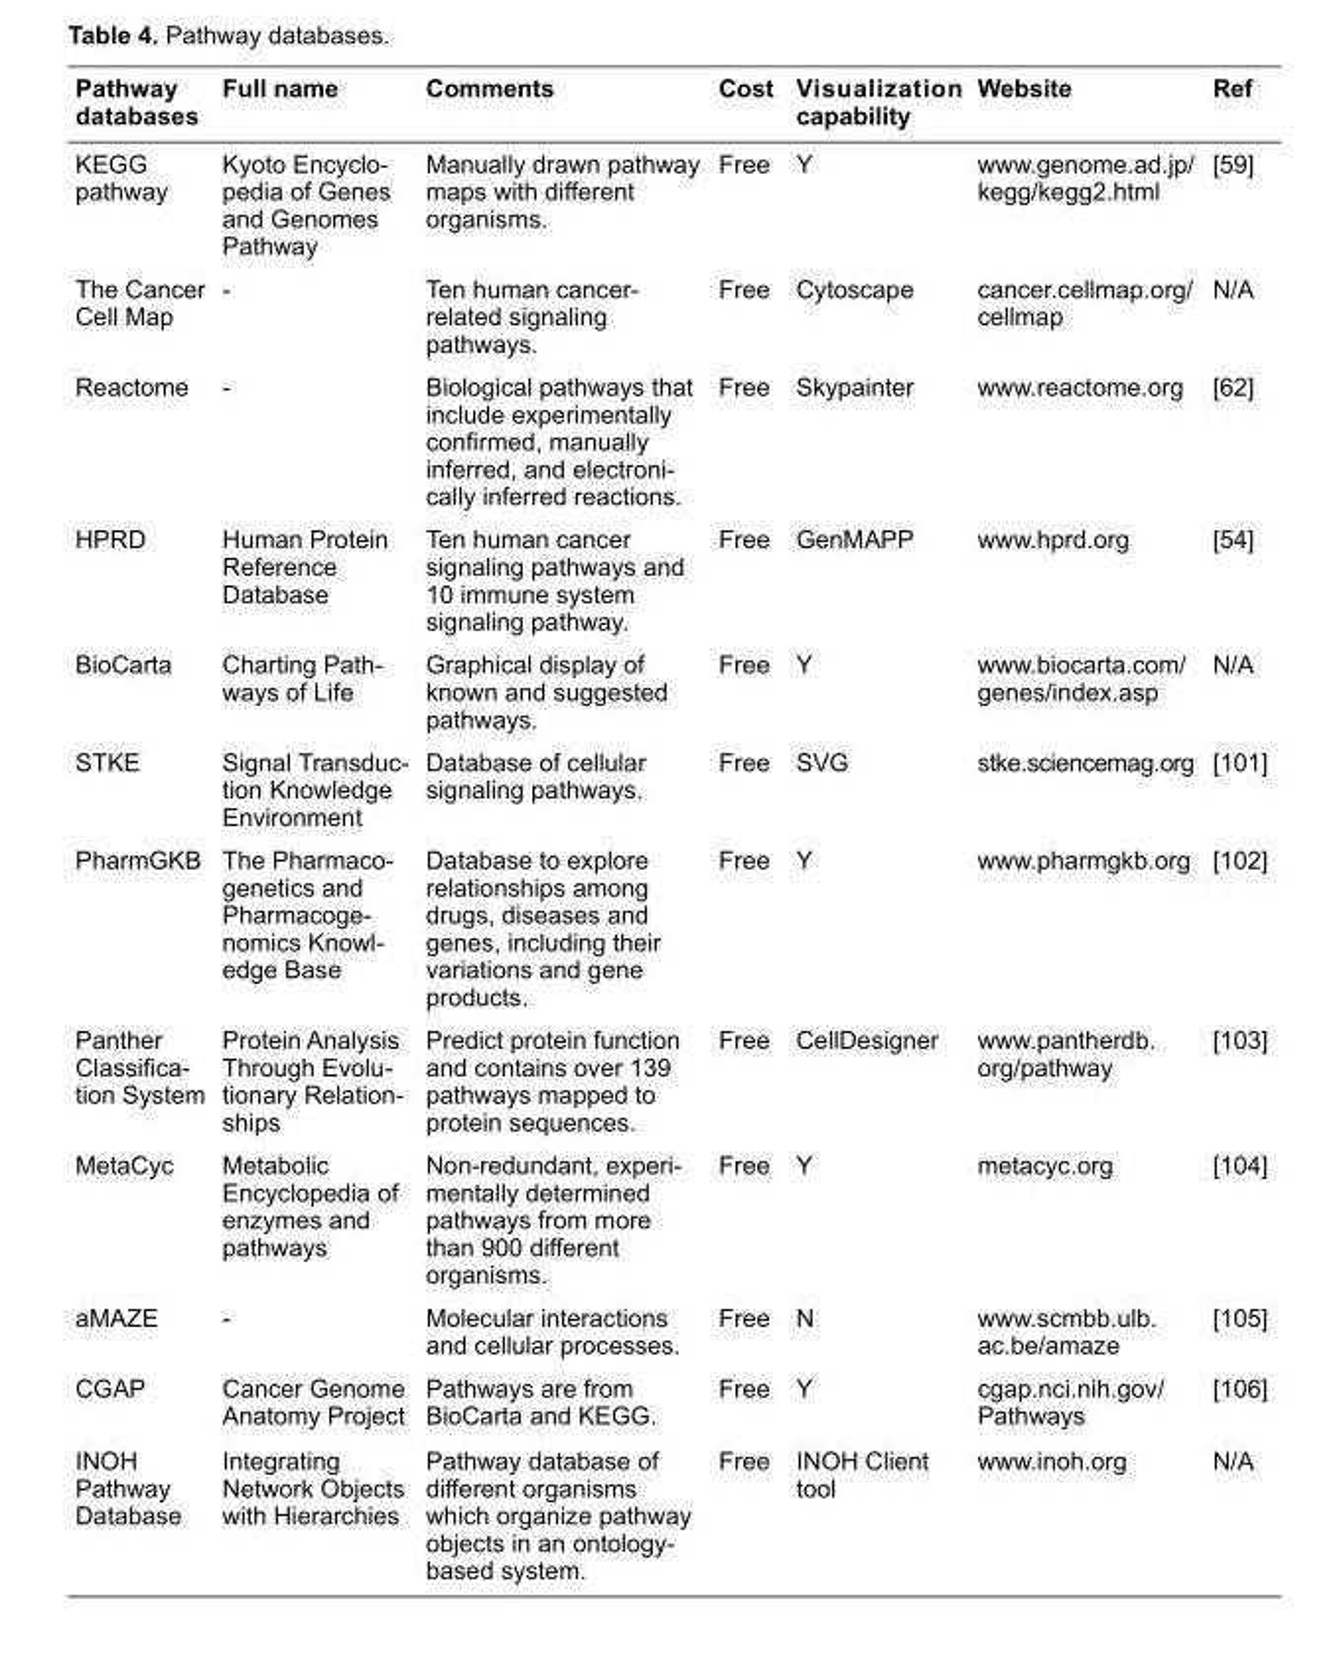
<table><thead><tr><td>Pathway databases</td><td>Full name</td><td>Comments</td><td>Cost</td><td>Visualization capability</td><td>Website</td><td>Ref</td></tr></thead><tbody><tr><td>KEGG pathway</td><td>Kyoto Encyclo- pedia of Genes and Genomes Pathway</td><td>Manually drawn pathway maps with different organisms.</td><td>Free</td><td>Y</td><td>www.genome.ad.jp/ kegg/kegg2.html</td><td>[59]</td></tr><tr><td>The Cancer Cell Map</td><td>-</td><td>Ten human cancer- related signaling pathways.</td><td>Free</td><td>Cytoscape</td><td>cancer.cellmap.org/ cellmap</td><td>N/A</td></tr><tr><td>Reactome</td><td>-</td><td>Biological pathways that include experimentally confi rmed, manually inferred, and electroni- cally inferred reactions.</td><td>Free</td><td>Skypainter</td><td>www.reactome.org</td><td>[62]</td></tr><tr><td>HPRD</td><td>Human Protein Reference Database</td><td>Ten human cancer signaling pathways and 10 immune system signaling pathway.</td><td>Free</td><td>GenMAPP</td><td>www.hprd.org</td><td>[54]</td></tr><tr><td>BioCarta</td><td>Charting Path- ways of Life</td><td>Graphical display of known and suggested pathways.</td><td>Free</td><td>Y</td><td>www.biocarta.com/ genes/index.asp</td><td>N/A</td></tr><tr><td>STKE</td><td>Signal Transduc- tion Knowledge Environment</td><td>Database of cellular signaling pathways.</td><td>Free</td><td>SVG</td><td>stke.sciencemag.org</td><td>[101]</td></tr><tr><td>PharmGKB</td><td>The Pharmaco- genetics and Pharmacoge- nomics Knowl- edge Base</td><td>Database to explore relationships among drugs, diseases and genes, including their variations and gene products.</td><td>Free</td><td>Y</td><td>www.pharmgkb.org</td><td>[102]</td></tr><tr><td>Panther Classifi ca- tion System</td><td>Protein Analysis Through Evolu- tionary Relation- ships</td><td>Predict protein function and contains over 139 pathways mapped to protein sequences.</td><td>Free</td><td>CellDesigner</td><td>www.pantherdb. org/pathway</td><td>[103]</td></tr><tr><td>MetaCyc</td><td>Metabolic Encyclopedia of enzymes and pathways</td><td>Non-redundant, experi- mentally determined pathways from more than 900 different organisms.</td><td>Free</td><td>Y</td><td>metacyc.org</td><td>[104]</td></tr><tr><td>aMAZE</td><td>-</td><td>Molecular interactions and cellular processes.</td><td>Free</td><td>N</td><td>www.scmbb.ulb. ac.be/amaze</td><td>[105]</td></tr><tr><td>CGAP</td><td>Cancer Genome Anatomy Project</td><td>Pathways are from BioCarta and KEGG.</td><td>Free</td><td>Y</td><td>cgap.nci.nih.gov/ Pathways</td><td>[106]</td></tr><tr><td>INOH Pathway Database</td><td>Integrating Network Objects with Hierarchies</td><td>Pathway database of different organisms which organize pathway objects in an ontology- based system.</td><td>Free</td><td>INOH Client tool</td><td>www.inoh.org</td><td>N/A</td></tr></tbody></table>